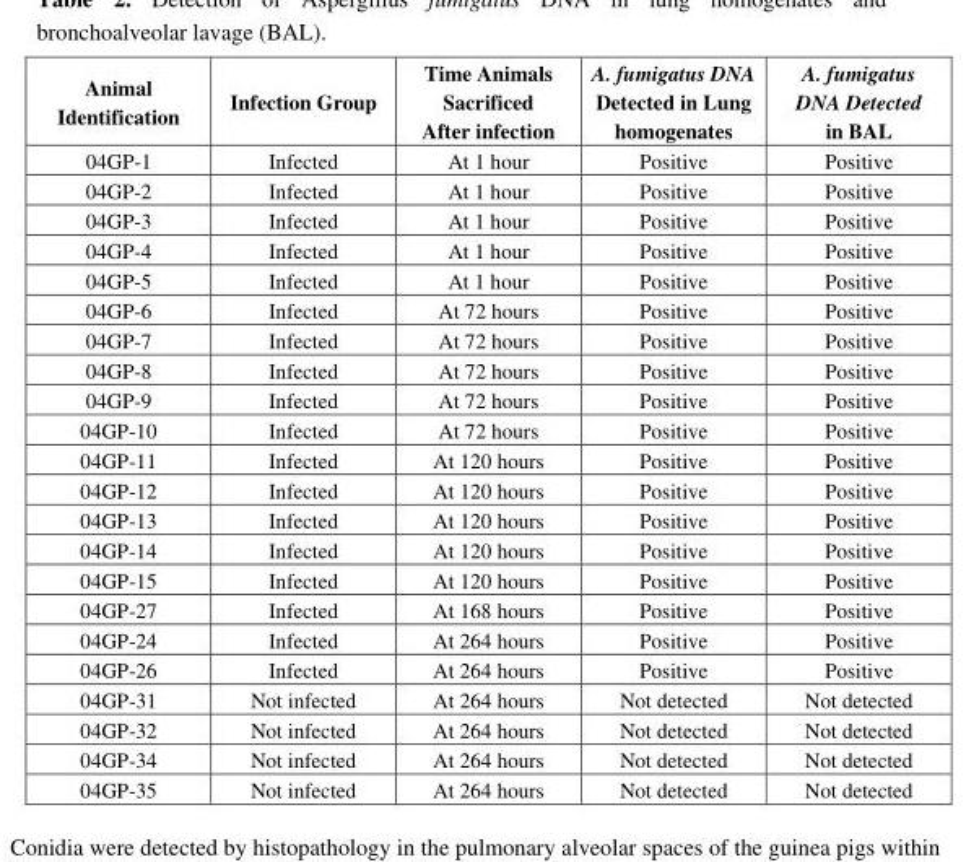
<table><thead><tr><td>Animal Identification</td><td>Infection Group</td><td>Time Animals Sacrificed After infection</td><td>A. fumigatus DNA Detected in Lung homogenates</td><td>A. fumigatus DNA Detected in BAL</td></tr></thead><tbody><tr><td>04GP-1</td><td>Infected</td><td>At 1 hour</td><td>Positive</td><td>Positive</td></tr><tr><td>04GP-2</td><td>Infected</td><td>At 1 hour</td><td>Positive</td><td>Positive</td></tr><tr><td>04GP-3</td><td>Infected</td><td>At 1 hour</td><td>Positive</td><td>Positive</td></tr><tr><td>04GP-4</td><td>Infected</td><td>At 1 hour</td><td>Positive</td><td>Positive</td></tr><tr><td>04GP-5</td><td>Infected</td><td>At 1 hour</td><td>Positive</td><td>Positive</td></tr><tr><td>04GP-6</td><td>Infected</td><td>At 72 hours</td><td>Positive</td><td>Positive</td></tr><tr><td>04GP-7</td><td>Infected</td><td>At 72 hours</td><td>Positive</td><td>Positive</td></tr><tr><td>04GP-8</td><td>Infected</td><td>At 72 hours</td><td>Positive</td><td>Positive</td></tr><tr><td>04GP-9</td><td>Infected</td><td>At 72 hours</td><td>Positive</td><td>Positive</td></tr><tr><td>04GP-10</td><td>Infected</td><td>At 72 hours</td><td>Positive</td><td>Positive</td></tr><tr><td>04GP-11</td><td>Infected</td><td>At 120 hours</td><td>Positive</td><td>Positive</td></tr><tr><td>04GP-12</td><td>Infected</td><td>At 120 hours</td><td>Positive</td><td>Positive</td></tr><tr><td>04GP-13</td><td>Infected</td><td>At 120 hours</td><td>Positive</td><td>Positive</td></tr><tr><td>04GP-14</td><td>Infected</td><td>At 120 hours</td><td>Positive</td><td>Positive</td></tr><tr><td>04GP-15</td><td>Infected</td><td>At 120 hours</td><td>Positive</td><td>Positive</td></tr><tr><td>04GP-27</td><td>Infected</td><td>At 168 hours</td><td>Positive</td><td>Positive</td></tr><tr><td>04GP-24</td><td>Infected</td><td>At 264 hours</td><td>Positive</td><td>Positive</td></tr><tr><td>04GP-26</td><td>Infected</td><td>At 264 hours</td><td>Positive</td><td>Positive</td></tr><tr><td>04GP-31</td><td>Not infected</td><td>At 264 hours</td><td>Not detected</td><td>Not detected</td></tr><tr><td>04GP-32</td><td>Not infected</td><td>At 264 hours</td><td>Not detected</td><td>Not detected</td></tr><tr><td>04GP-34</td><td>Not infected</td><td>At 264 hours</td><td>Not detected</td><td>Not detected</td></tr><tr><td>04GP-35</td><td>Not infected</td><td>At 264 hours</td><td>Not detected</td><td>Not detected</td></tr></tbody></table>